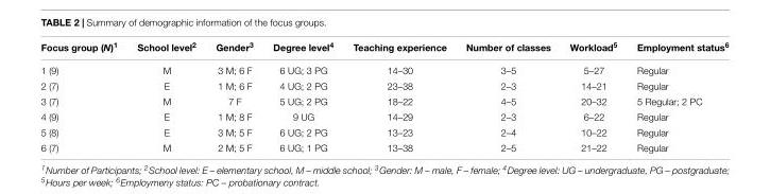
<table><thead><tr><td>Focus group (N)<sup>1</sup></td><td>School level<sup>2</sup></td><td>Gender<sup>3</sup></td><td>Degree level<sup>4</sup></td><td>Teaching experience</td><td>Number of classes</td><td>Workload<sup>5</sup></td><td>Employment status<sup>6</sup></td></tr></thead><tbody><tr><td>1 (9)</td><td>M</td><td>3 M; 6 F</td><td>6 UG; 3 PG</td><td>14–30</td><td>3–5</td><td>5–27</td><td>Regular</td></tr><tr><td>2 (7)</td><td>E</td><td>1 M; 6 F</td><td>4 UG; 2 PG</td><td>23–38</td><td>2–3</td><td>14–21</td><td>Regular</td></tr><tr><td>3 (7)</td><td>M</td><td>7 F</td><td>5 UG; 2 PG</td><td>18–22</td><td>4–5</td><td>20–32</td><td>5 Regular; 2 PC</td></tr><tr><td>4 (9)</td><td>E</td><td>1 M; 8 F</td><td>9 UG</td><td>14–29</td><td>2–3</td><td>6–22</td><td>Regular</td></tr><tr><td>5 (8)</td><td>E</td><td>3 M; 5 F</td><td>6 UG; 2 PG</td><td>13–23</td><td>2–4</td><td>10–22</td><td>Regular</td></tr><tr><td>6 (7)</td><td>M</td><td>2 M; 5 F</td><td>6 UG; 1 PG</td><td>13–38</td><td>2–5</td><td>21–22</td><td>Regular</td></tr></tbody></table>